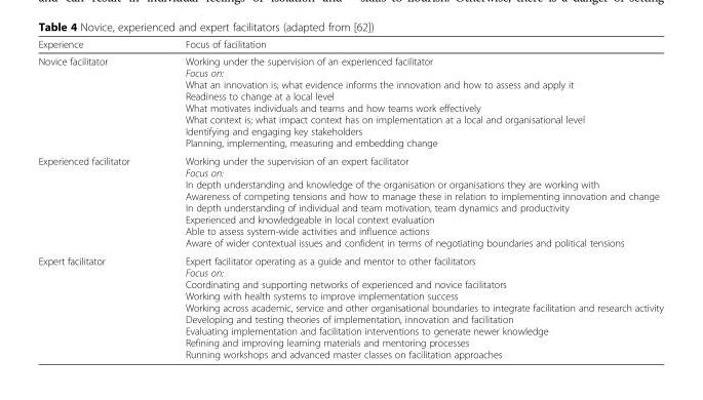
<table><thead><tr><td>Experience</td><td>Focus of facilitation</td></tr></thead><tbody><tr><td>Novice facilitator</td><td>Working under the supervision of an experienced facilitator Focus on: What an innovation is; what evidence informs the innovation and how to assess and apply it Readiness to change at a local level What motivates individuals and teams and how teams work effectively What context is; what impact context has on implementation at a local and organisational level Identifying and engaging key stakeholders Planning, implementing, measuring and embedding change</td></tr><tr><td>Experienced facilitator</td><td>Working under the supervision of an expert facilitator Focus on: In depth understanding and knowledge of the organisation or organisations they are working with Awareness of competing tensions and how to manage these in relation to implementing innovation and change In depth understanding of individual and team motivation, team dynamics and productivity Experienced and knowledgeable in local context evaluation Able to assess system-wide activities and influence actions Aware of wider contextual issues and confident in terms of negotiating boundaries and political tensions</td></tr><tr><td>Expert facilitator</td><td>Expert facilitator operating as a guide and mentor to other facilitators Focus on: Coordinating and supporting networks of experienced and novice facilitators Working with health systems to improve implementation success Working across academic, service and other organisational boundaries to integrate facilitation and research activity Developing and testing theories of implementation, innovation and facilitation Evaluating implementation and facilitation interventions to generate newer knowledge Refining and improving learning materials and mentoring processes Running workshops and advanced master classes on facilitation approaches</td></tr></tbody></table>